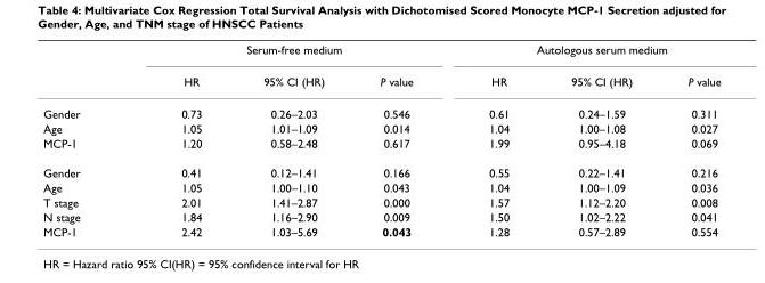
<table><thead><tr><td rowspan="2"></td><td colspan="3">Serum-free medium</td><td colspan="3">Autologous serum medium</td></tr><tr><td>HR</td><td>95% CI (HR)</td><td>P value</td><td>HR</td><td>95% CI (HR)</td><td>P value</td></tr></thead><tbody><tr><td>Gender</td><td>0.73</td><td>0.26–2.03</td><td>0.546</td><td>0.61</td><td>0.24–1.59</td><td>0.311</td></tr><tr><td>Age</td><td>1.05</td><td>1.01–1.09</td><td>0.014</td><td>1.04</td><td>1.00–1.08</td><td>0.027</td></tr><tr><td>MCP-1</td><td>1.20</td><td>0.58–2.48</td><td>0.617</td><td>1.99</td><td>0.95–4.18</td><td>0.069</td></tr><tr><td>Gender</td><td>0.41</td><td>0.12–1.41</td><td>0.166</td><td>0.55</td><td>0.22–1.41</td><td>0.216</td></tr><tr><td>Age</td><td>1.05</td><td>1.00–1.10</td><td>0.043</td><td>1.04</td><td>1.00–1.09</td><td>0.036</td></tr><tr><td>T stage</td><td>2.01</td><td>1.41–2.87</td><td>0.000</td><td>1.57</td><td>1.12–2.20</td><td>0.008</td></tr><tr><td>N stage</td><td>1.84</td><td>1.16–2.90</td><td>0.009</td><td>1.50</td><td>1.02–2.22</td><td>0.041</td></tr><tr><td>MCP-1</td><td>2.42</td><td>1.03–5.69</td><td>0.043</td><td>1.28</td><td>0.57–2.89</td><td>0.554</td></tr></tbody></table>